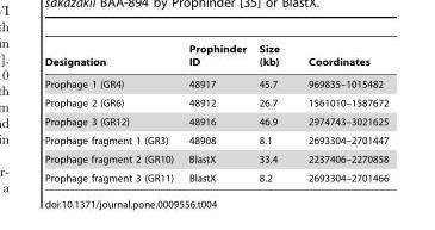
<table><thead><tr><td>Designation</td><td>Prophinder ID</td><td>Size (kb)</td><td>Coordinates</td></tr></thead><tbody><tr><td>Prophage 1 (GR4)</td><td>48917</td><td>45.7</td><td>969835–1015482</td></tr><tr><td>Prophage 2 (GR6)</td><td>48912</td><td>26.7</td><td>1561010–1587672</td></tr><tr><td>Prophage 3 (GR12)</td><td>48916</td><td>46.9</td><td>2974743–3021625</td></tr><tr><td>Prophage fragment 1 (GR3)</td><td>48908</td><td>8.1</td><td>2693304–2701447</td></tr><tr><td>Prophage fragment 2 (GR10)</td><td>BlastX</td><td>33.4</td><td>2237406–2270858</td></tr><tr><td>Prophage fragment 3 (GR11)</td><td>BlastX</td><td>8.2</td><td>2693304–2701466</td></tr></tbody></table>